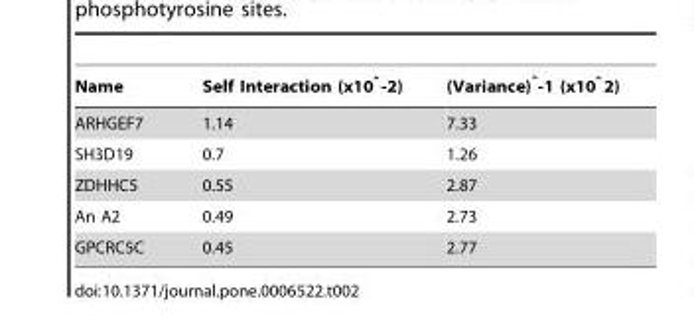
<table><thead><tr><td>Name</td><td>Self Interaction (x10ˆ-2)</td><td>(Variance)ˆ-1 (x10ˆ2)</td></tr></thead><tbody><tr><td>ARHGEF7</td><td>1.14</td><td>7.33</td></tr><tr><td>SH3D19</td><td>0.7</td><td>1.26</td></tr><tr><td>ZDHHC5</td><td>0.55</td><td>2.87</td></tr><tr><td>An A2</td><td>0.49</td><td>2.73</td></tr><tr><td>GPCRC5C</td><td>0.45</td><td>2.77</td></tr></tbody></table>